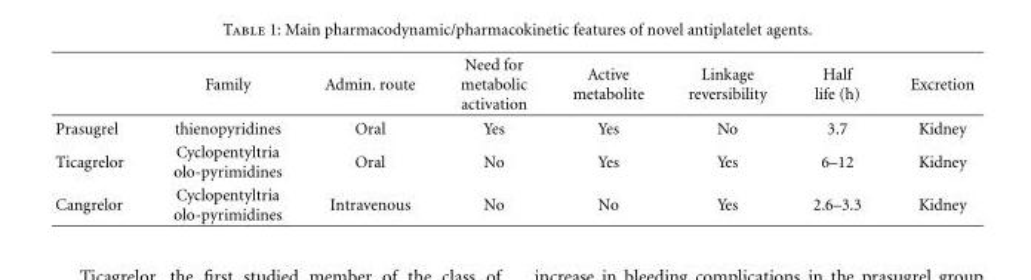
<table><thead><tr><td></td><td>Family</td><td>Admin. route</td><td>Need for metabolic activation</td><td>Active metabolite</td><td>Linkage reversibility</td><td>Half life (h)</td><td>Excretion</td></tr></thead><tbody><tr><td>Prasugrel</td><td>thienopyridines</td><td>Oral</td><td>Yes</td><td>Yes</td><td>No</td><td>3.7</td><td>Kidney</td></tr><tr><td>Ticagrelor</td><td>Cyclopentyltria olo-pyrimidines</td><td>Oral</td><td>No</td><td>Yes</td><td>Yes</td><td>6–12</td><td>Kidney</td></tr><tr><td>Cangrelor</td><td>Cyclopentyltria olo-pyrimidines</td><td>Intravenous</td><td>No</td><td>No</td><td>Yes</td><td>2.6–3.3</td><td>Kidney</td></tr></tbody></table>